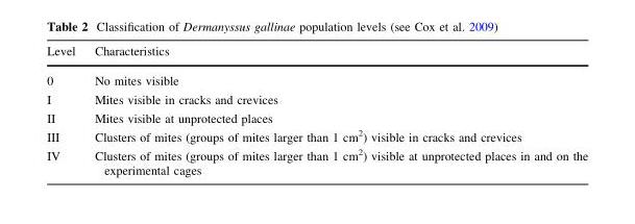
<table><thead><tr><td>Level</td><td>Characteristics</td></tr></thead><tbody><tr><td>0</td><td>No mites visible</td></tr><tr><td>I</td><td>Mites visible in cracks and crevices</td></tr><tr><td>II</td><td>Mites visible at unprotected places</td></tr><tr><td>III</td><td>Clusters of mites (groups of mites larger than 1 cm<sup>2</sup>) visible in cracks and crevices</td></tr><tr><td>IV</td><td>Clusters of mites (groups of mites larger than 1 cm<sup>2</sup>) visible at unprotected places in and on the experimental cages</td></tr></tbody></table>